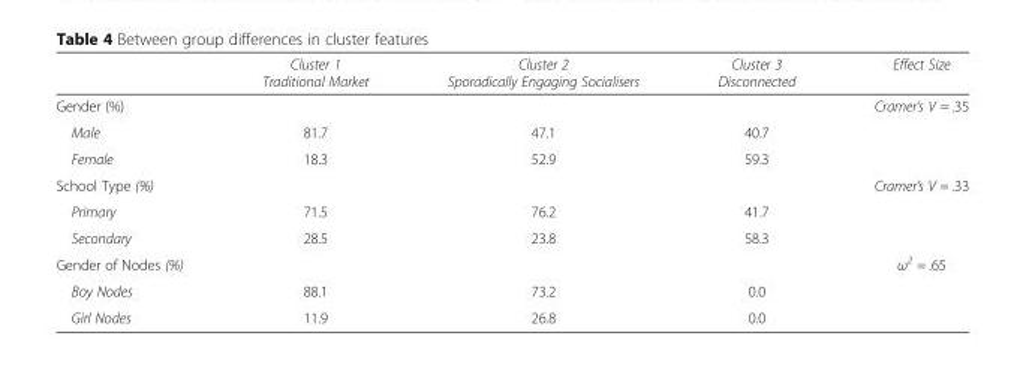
<table><thead><tr><td></td><td>Cluster 1 Traditional Market</td><td>Cluster 2 Sporadically Engaging Socialisers</td><td>Cluster 3 Disconnected</td><td>Effect Size</td></tr></thead><tbody><tr><td>Gender (%)</td><td></td><td></td><td></td><td>Cramer’s V = .35</td></tr><tr><td>Male</td><td>81.7</td><td>47.1</td><td>40.7</td><td></td></tr><tr><td>Female</td><td>18.3</td><td>52.9</td><td>59.3</td><td></td></tr><tr><td>School Type (%)</td><td></td><td></td><td></td><td>Cramer’s V = .33</td></tr><tr><td>Primary</td><td>71.5</td><td>76.2</td><td>41.7</td><td></td></tr><tr><td>Secondary</td><td>28.5</td><td>23.8</td><td>58.3</td><td></td></tr><tr><td>Gender of Nodes (%)</td><td></td><td></td><td></td><td>ω<sup>2</sup> = .65</td></tr><tr><td>Boy Nodes</td><td>88.1</td><td>73.2</td><td>0.0</td><td></td></tr><tr><td>Girl Nodes</td><td>11.9</td><td>26.8</td><td>0.0</td><td></td></tr></tbody></table>